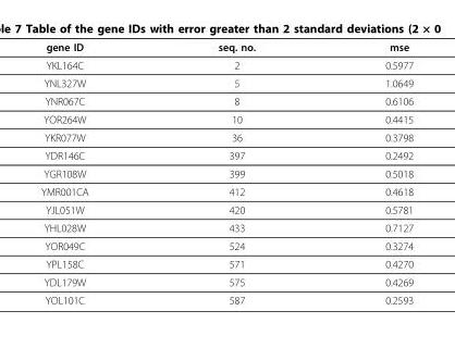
<table><thead><tr><td>gene ID</td><td>seq. no.</td><td>mse</td></tr></thead><tbody><tr><td>YKL164C</td><td>2</td><td>0.5977</td></tr><tr><td>YNL327W</td><td>5</td><td>1.0649</td></tr><tr><td>YNR067C</td><td>8</td><td>0.6106</td></tr><tr><td>YOR264W</td><td>10</td><td>0.4415</td></tr><tr><td>YKR077W</td><td>36</td><td>0.3798</td></tr><tr><td>YDR146C</td><td>397</td><td>0.2492</td></tr><tr><td>YGR108W</td><td>399</td><td>0.5018</td></tr><tr><td>YMR001CA</td><td>412</td><td>0.4618</td></tr><tr><td>YJL051W</td><td>420</td><td>0.5781</td></tr><tr><td>YHL028W</td><td>433</td><td>0.7127</td></tr><tr><td>YOR049C</td><td>524</td><td>0.3274</td></tr><tr><td>YPL158C</td><td>571</td><td>0.4270</td></tr><tr><td>YDL179W</td><td>575</td><td>0.4269</td></tr><tr><td>YOL101C</td><td>587</td><td>0.2593</td></tr></tbody></table>